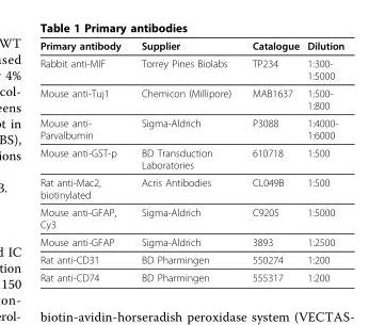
<table><thead><tr><td>Primary antibody</td><td>Supplier</td><td>Catalogue</td><td>Dilution</td></tr></thead><tbody><tr><td>Rabbit anti-MIF</td><td>Torrey Pines Biolabs</td><td>TP234</td><td>1:300- 1:5000</td></tr><tr><td>Mouse anti-Tuj1</td><td>Chemicon (Millipore)</td><td>MAB1637</td><td>1:500- 1:800</td></tr><tr><td>Mouse anti- Parvalbumin</td><td>Sigma-Aldrich</td><td>P3088</td><td>1:4000- 1:6000</td></tr><tr><td>Mouse anti-GST-p</td><td>BD Transduction Laboratories</td><td>610718</td><td>1:500</td></tr><tr><td>Rat anti-Mac2, biotinylated</td><td>Acris Antibodies</td><td>CL049B</td><td>1:500</td></tr><tr><td>Mouse anti-GFAP, Cy3</td><td>Sigma-Aldrich</td><td>C9205</td><td>1:5000</td></tr><tr><td>Mouse anti-GFAP</td><td>Sigma-Aldrich</td><td>3893</td><td>1:2500</td></tr><tr><td>Rat anti-CD31</td><td>BD Pharmingen</td><td>550274</td><td>1:200</td></tr><tr><td>Rat anti-CD74</td><td>BD Pharmingen</td><td>555317</td><td>1:200</td></tr></tbody></table>